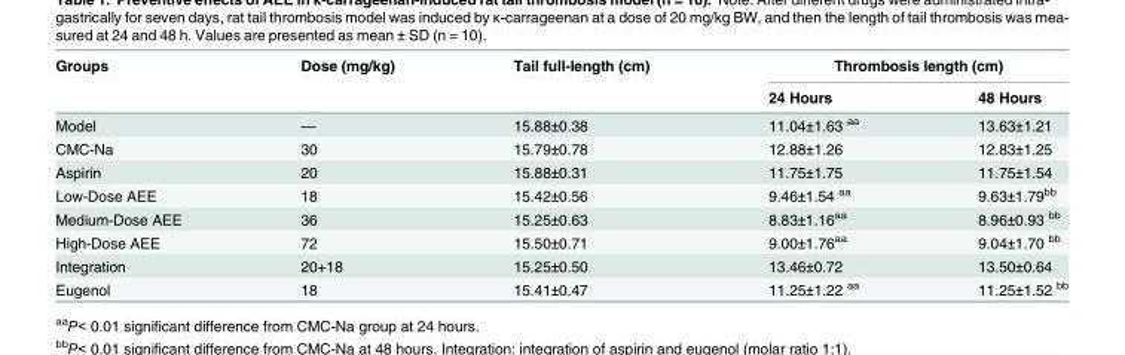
<table><thead><tr><td rowspan="2">Groups</td><td rowspan="2">Dose (mg/kg)</td><td rowspan="2">Tail full-length (cm)</td><td colspan="2">Thrombosis length (cm)</td></tr><tr><td>24 Hours</td><td>48 Hours</td></tr></thead><tbody><tr><td>Model</td><td>—</td><td>15.88±0.38</td><td>11.04±1.63 <sup>aa</sup></td><td>13.63±1.21</td></tr><tr><td>CMC-Na</td><td>30</td><td>15.79±0.78</td><td>12.88±1.26</td><td>12.83±1.25</td></tr><tr><td>Aspirin</td><td>20</td><td>15.88±0.31</td><td>11.75±1.75</td><td>11.75±1.54</td></tr><tr><td>Low-Dose AEE</td><td>18</td><td>15.42±0.56</td><td>9.46±1.54 <sup>aa</sup></td><td>9.63±1.79<sup>bb</sup></td></tr><tr><td>Medium-Dose AEE</td><td>36</td><td>15.25±0.63</td><td>8.83±1.16<sup>aa</sup></td><td>8.96±0.93 <sup>bb</sup></td></tr><tr><td>High-Dose AEE</td><td>72</td><td>15.50±0.71</td><td>9.00±1.76<sup>aa</sup></td><td>9.04±1.70 <sup>bb</sup></td></tr><tr><td>Integration</td><td>20+18</td><td>15.25±0.50</td><td>13.46±0.72</td><td>13.50±0.64</td></tr><tr><td>Eugenol</td><td>18</td><td>15.41±0.47</td><td>11.25±1.22 <sup>aa</sup></td><td>11.25±1.52 <sup>bb</sup></td></tr></tbody></table>